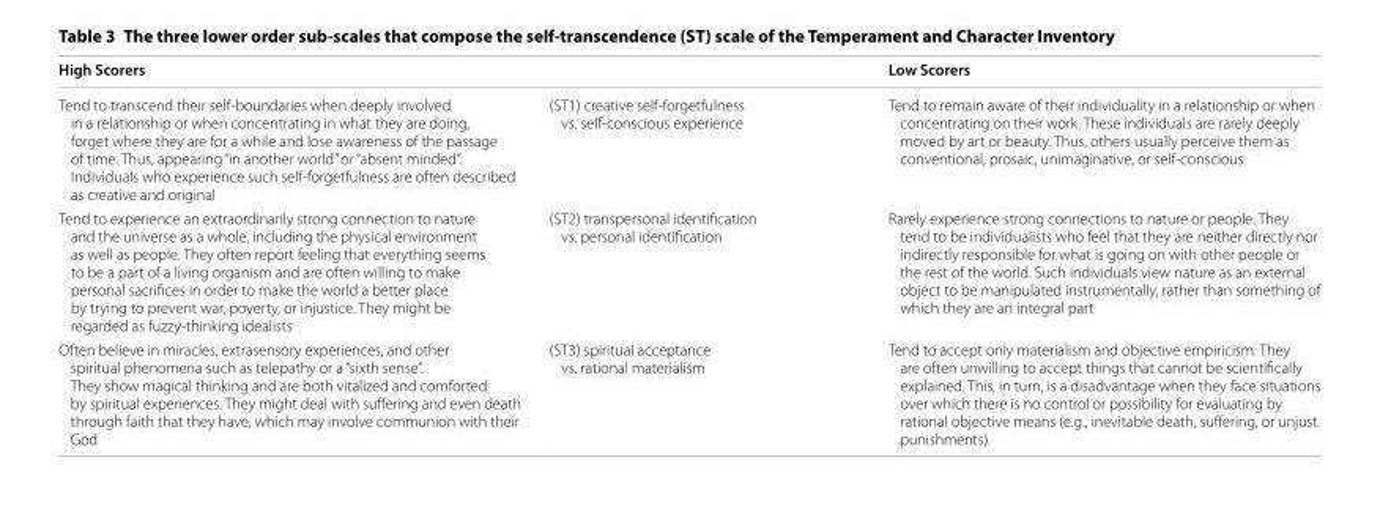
<table><thead><tr><td>High Scorers</td><td></td><td>Low Scorers</td></tr></thead><tbody><tr><td>Tend to transcend their self-boundaries when deeply involved in a relationship or when concentrating in what they are doing, forget where they are for a while and lose awareness of the passage of time. Thus, appearing “in another world” or “absent minded”. Individuals who experience such self-forgetfulness are often described as creative and original</td><td>(ST1) creative self-forgetfulness vs. self-conscious experience</td><td>Tend to remain aware of their individuality in a relationship or when concentrating on their work. These individuals are rarely deeply moved by art or beauty. Thus, others usually perceive them as conventional, prosaic, unimaginative, or self-conscious</td></tr><tr><td>Tend to experience an extraordinarily strong connection to nature and the universe as a whole, including the physical environment as well as people. They often report feeling that everything seems to be a part of a living organism and are often willing to make personal sacrifices in order to make the world a better place by trying to prevent war, poverty, or injustice. They might be regarded as fuzzy-thinking idealists</td><td>(ST2) transpersonal identification vs. personal identification</td><td>Rarely experience strong connections to nature or people. They tend to be individualists who feel that they are neither directly nor indirectly responsible for what is going on with other people or the rest of the world. Such individuals view nature as an external object to be manipulated instrumentally, rather than something of which they are an integral part</td></tr><tr><td>Often believe in miracles, extrasensory experiences, and other spiritual phenomena such as telepathy or a “sixth sense”. They show magical thinking and are both vitalized and comforted by spiritual experiences. They might deal with suffering and even death through faith that they have, which may involve communion with their God</td><td>(ST3) spiritual acceptance vs. rational materialism</td><td>Tend to accept only materialism and objective empiricism. They are often unwilling to accept things that cannot be scientifically explained. This, in turn, is a disadvantage when they face situations over which there is no control or possibility for evaluating by rational objective means (e.g., inevitable death, suffering, or unjust punishments)</td></tr></tbody></table>